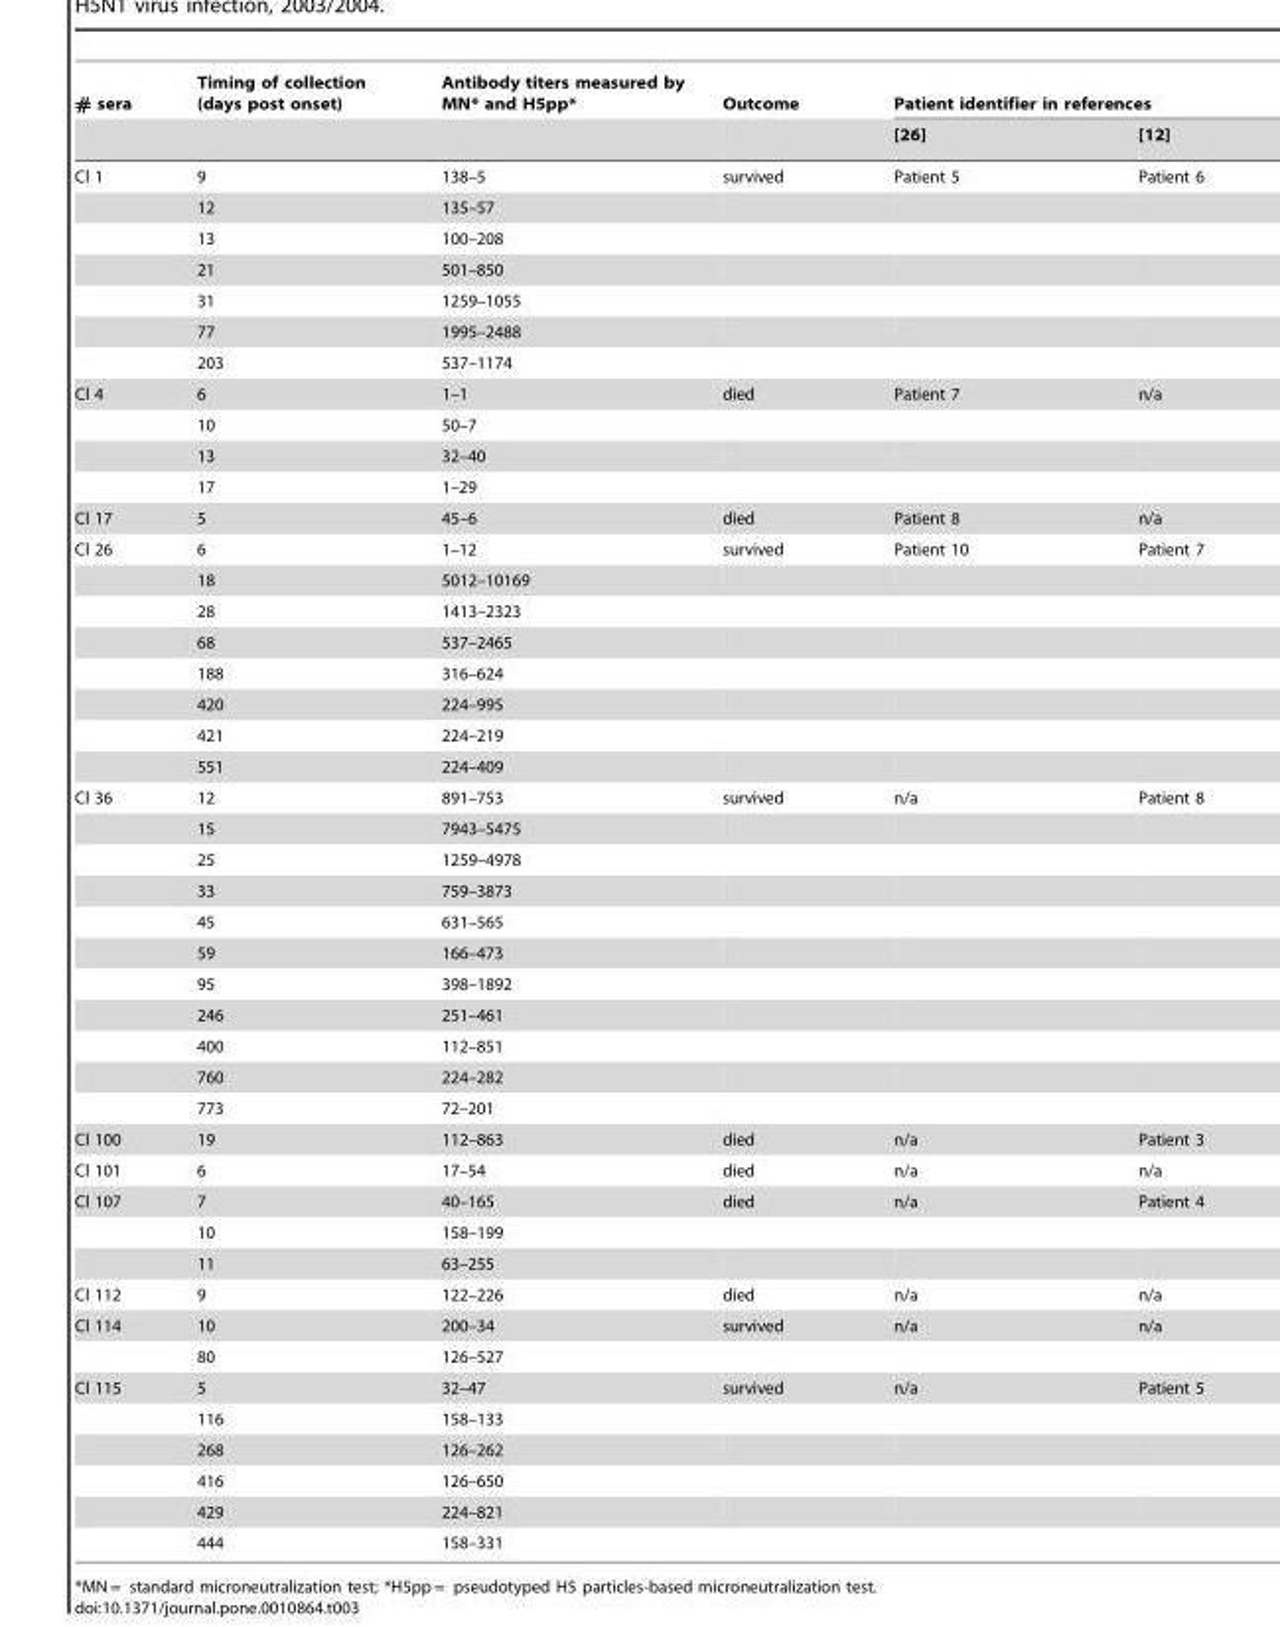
<table><thead><tr><td rowspan="2"># sera</td><td rowspan="2">Timing of collection (days post onset)</td><td rowspan="2">Antibody titers measured by MN* and H5pp*</td><td rowspan="2">Outcome</td><td colspan="2">Patient identifier in references</td></tr><tr><td>[26]</td><td>[12]</td></tr></thead><tbody><tr><td rowspan="7">Cl 1</td><td>9</td><td>138–5</td><td>survived</td><td>Patient 5</td><td>Patient 6</td></tr><tr><td>12</td><td>135–57</td><td></td><td></td><td></td></tr><tr><td>13</td><td>100–208</td><td></td><td></td><td></td></tr><tr><td>21</td><td>501–850</td><td></td><td></td><td></td></tr><tr><td>31</td><td>1259–1055</td><td></td><td></td><td></td></tr><tr><td>77</td><td>1995–2488</td><td></td><td></td><td></td></tr><tr><td>203</td><td>537–1174</td><td></td><td></td><td></td></tr><tr><td rowspan="4">Cl 4</td><td>6</td><td>1–1</td><td>died</td><td>Patient 7</td><td>n/a</td></tr><tr><td>10</td><td>50–7</td><td></td><td></td><td></td></tr><tr><td>13</td><td>32–40</td><td></td><td></td><td></td></tr><tr><td>17</td><td>1–29</td><td></td><td></td><td></td></tr><tr><td>Cl 17</td><td>5</td><td>45–6</td><td>died</td><td>Patient 8</td><td>n/a</td></tr><tr><td rowspan="8">Cl 26</td><td>6</td><td>1–12</td><td>survived</td><td>Patient 10</td><td>Patient 7</td></tr><tr><td>18</td><td>5012–10169</td><td></td><td></td><td></td></tr><tr><td>28</td><td>1413–2323</td><td></td><td></td><td></td></tr><tr><td>68</td><td>537–2465</td><td></td><td></td><td></td></tr><tr><td>188</td><td>316–624</td><td></td><td></td><td></td></tr><tr><td>420</td><td>224–995</td><td></td><td></td><td></td></tr><tr><td>421</td><td>224–219</td><td></td><td></td><td></td></tr><tr><td>551</td><td>224–409</td><td></td><td></td><td></td></tr><tr><td rowspan="11">Cl 36</td><td>12</td><td>891–753</td><td>survived</td><td>n/a</td><td>Patient 8</td></tr><tr><td>15</td><td>7943–5475</td><td></td><td></td><td></td></tr><tr><td>25</td><td>1259–4978</td><td></td><td></td><td></td></tr><tr><td>33</td><td>759–3873</td><td></td><td></td><td></td></tr><tr><td>45</td><td>631–565</td><td></td><td></td><td></td></tr><tr><td>59</td><td>166–473</td><td></td><td></td><td></td></tr><tr><td>95</td><td>398–1892</td><td></td><td></td><td></td></tr><tr><td>246</td><td>251–461</td><td></td><td></td><td></td></tr><tr><td>400</td><td>112–851</td><td></td><td></td><td></td></tr><tr><td>760</td><td>224–282</td><td></td><td></td><td></td></tr><tr><td>773</td><td>72–201</td><td></td><td></td><td></td></tr><tr><td>Cl 100</td><td>19</td><td>112–863</td><td>died</td><td>n/a</td><td>Patient 3</td></tr><tr><td>Cl 101</td><td>6</td><td>17–54</td><td>died</td><td>n/a</td><td>n/a</td></tr><tr><td rowspan="3">Cl 107</td><td>7</td><td>40–165</td><td>died</td><td>n/a</td><td>Patient 4</td></tr><tr><td>10</td><td>158–199</td><td></td><td></td><td></td></tr><tr><td>11</td><td>63–255</td><td></td><td></td><td></td></tr><tr><td>Cl 112</td><td>9</td><td>122–226</td><td>died</td><td>n/a</td><td>n/a</td></tr><tr><td rowspan="2">Cl 114</td><td>10</td><td>200–34</td><td>survived</td><td>n/a</td><td>n/a</td></tr><tr><td>80</td><td>126–527</td><td></td><td></td><td></td></tr><tr><td rowspan="6">Cl 115</td><td>5</td><td>32–47</td><td>survived</td><td>n/a</td><td>Patient 5</td></tr><tr><td>116</td><td>158–133</td><td></td><td></td><td></td></tr><tr><td>268</td><td>126–262</td><td></td><td></td><td></td></tr><tr><td>416</td><td>126–650</td><td></td><td></td><td></td></tr><tr><td>429</td><td>224–821</td><td></td><td></td><td></td></tr><tr><td>444</td><td>158–331</td><td></td><td></td><td></td></tr></tbody></table>